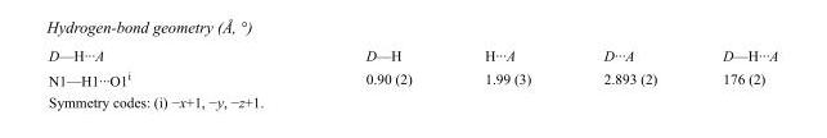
<table><tbody><tr><td>D—H···A</td><td>D—H</td><td>H···A</td><td>D···A</td><td>D—H···A</td></tr><tr><td>N1—H1···O1<sup>i</sup></td><td>0.90 (2)</td><td>1.99 (3)</td><td>2.893 (2)</td><td>176 (2)</td></tr></tbody></table>